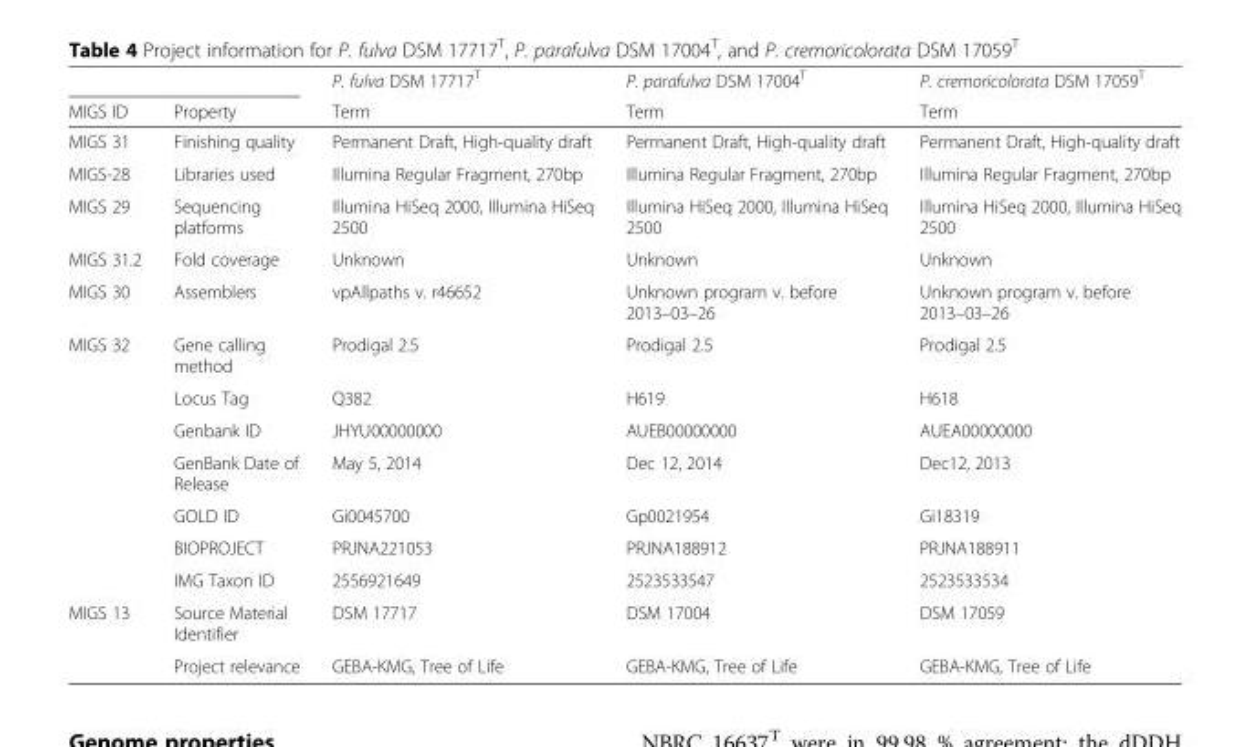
<table><thead><tr><td rowspan="2">MIGS ID</td><td rowspan="2">Property</td><td rowspan="2">P. fulva DSM 17717<sup>T</sup> Term</td><td rowspan="2">P. parafulva DSM 17004<sup>T</sup> Term</td><td rowspan="2">P. cremoricolorata DSM 17059<sup>T</sup> Term</td></tr><tr></tr></thead><tbody><tr><td>MIGS 31</td><td>Finishing quality</td><td>Permanent Draft, High-quality draft</td><td>Permanent Draft, High-quality draft</td><td>Permanent Draft, High-quality draft</td></tr><tr><td>MIGS-28</td><td>Libraries used</td><td>Illumina Regular Fragment, 270bp</td><td>Illumina Regular Fragment, 270bp</td><td>Illumina Regular Fragment, 270bp</td></tr><tr><td>MIGS 29</td><td>Sequencing platforms</td><td>Illumina HiSeq 2000, Illumina HiSeq 2500</td><td>Illumina HiSeq 2000, Illumina HiSeq 2500</td><td>Illumina HiSeq 2000, Illumina HiSeq 2500</td></tr><tr><td>MIGS 31.2</td><td>Fold coverage</td><td>Unknown</td><td>Unknown</td><td>Unknown</td></tr><tr><td>MIGS 30</td><td>Assemblers</td><td>vpAllpaths v. r46652</td><td>Unknown program v. before 2013–03–26</td><td>Unknown program v. before 2013–03–26</td></tr><tr><td rowspan="7">MIGS 32</td><td>Gene calling method</td><td>Prodigal 2.5</td><td>Prodigal 2.5</td><td>Prodigal 2.5</td></tr><tr><td>Locus Tag</td><td>Q382</td><td>H619</td><td>H618</td></tr><tr><td>Genbank ID</td><td>JHYU00000000</td><td>AUEB00000000</td><td>AUEA00000000</td></tr><tr><td>GenBank Date of Release</td><td>May 5, 2014</td><td>Dec 12, 2014</td><td>Dec12, 2013</td></tr><tr><td>GOLD ID</td><td>Gi0045700</td><td>Gp0021954</td><td>Gi18319</td></tr><tr><td>BIOPROJECT</td><td>PRJNA221053</td><td>PRJNA188912</td><td>PRJNA188911</td></tr><tr><td>IMG Taxon ID</td><td>2556921649</td><td>2523533547</td><td>2523533534</td></tr><tr><td rowspan="2">MIGS 13</td><td>Source Material Identifier</td><td>DSM 17717</td><td>DSM 17004</td><td>DSM 17059</td></tr><tr><td>Project relevance</td><td>GEBA-KMG, Tree of Life</td><td>GEBA-KMG, Tree of Life</td><td>GEBA-KMG, Tree of Life</td></tr></tbody></table>